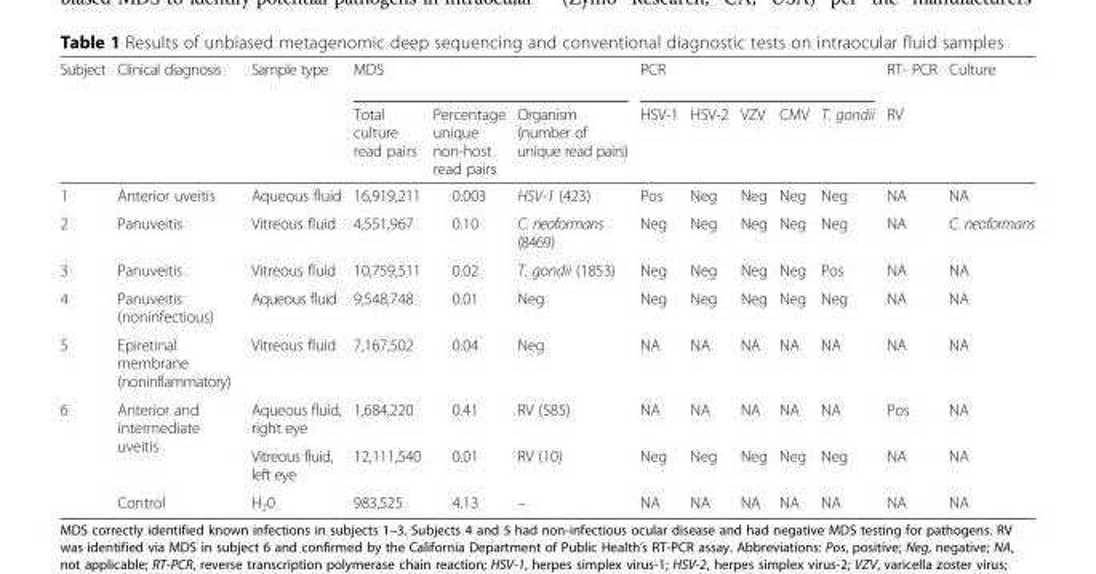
<table><thead><tr><td rowspan="2">Subject</td><td rowspan="2">Clinical diagnosis</td><td rowspan="2">Sample type</td><td colspan="3">MDS</td><td colspan="5">PCR</td><td rowspan="2">RT- PCR RV</td><td rowspan="2">Culture</td></tr><tr><td>Total culture read pairs</td><td>Percentage unique non-host read pairs</td><td>Organism (number of unique read pairs)</td><td>HSV-1</td><td>HSV-2</td><td>VZV</td><td>CMV</td><td>T. gondii</td></tr></thead><tbody><tr><td>1</td><td>Anterior uveitis</td><td>Aqueous fluid</td><td>16,919,211</td><td>0.003</td><td>HSV-1 (423)</td><td>Pos</td><td>Neg</td><td>Neg</td><td>Neg</td><td>Neg</td><td>NA</td><td>NA</td></tr><tr><td>2</td><td>Panuveitis</td><td>Vitreous fluid</td><td>4,551,967</td><td>0.10</td><td>C. neoformans (8469)</td><td>Neg</td><td>Neg</td><td>Neg</td><td>Neg</td><td>Neg</td><td>NA</td><td>C. neoformans</td></tr><tr><td>3</td><td>Panuveitis</td><td>Vitreous fluid</td><td>10,759,511</td><td>0.02</td><td>T. gondii (1853)</td><td>Neg</td><td>Neg</td><td>Neg</td><td>Neg</td><td>Pos</td><td>NA</td><td>NA</td></tr><tr><td>4</td><td>Panuveitis (noninfectious)</td><td>Aqueous fluid</td><td>9,548,748</td><td>0.01</td><td>Neg</td><td>Neg</td><td>Neg</td><td>Neg</td><td>Neg</td><td>Neg</td><td>NA</td><td>NA</td></tr><tr><td>5</td><td>Epiretinal membrane (noninflammatory)</td><td>Vitreous fluid</td><td>7,167,502</td><td>0.04</td><td>Neg</td><td>NA</td><td>NA</td><td>NA</td><td>NA</td><td>NA</td><td>NA</td><td>NA</td></tr><tr><td rowspan="3">6</td><td rowspan="2">Anterior and intermediate uveitis</td><td>Aqueous fluid, right eye</td><td>1,684,220</td><td>0.41</td><td>RV (585)</td><td>NA</td><td>NA</td><td>NA</td><td>NA</td><td>NA</td><td>Pos</td><td>NA</td></tr><tr><td>Vitreous fluid, left eye</td><td>12,111,540</td><td>0.01</td><td>RV (10)</td><td>Neg</td><td>Neg</td><td>Neg</td><td>Neg</td><td>Neg</td><td>NA</td><td>NA</td></tr><tr><td>Control</td><td>H<sub>2</sub>0</td><td>983,525</td><td>4.13</td><td>–</td><td>NA</td><td>NA</td><td>NA</td><td>NA</td><td>NA</td><td>NA</td><td>NA</td></tr></tbody></table>